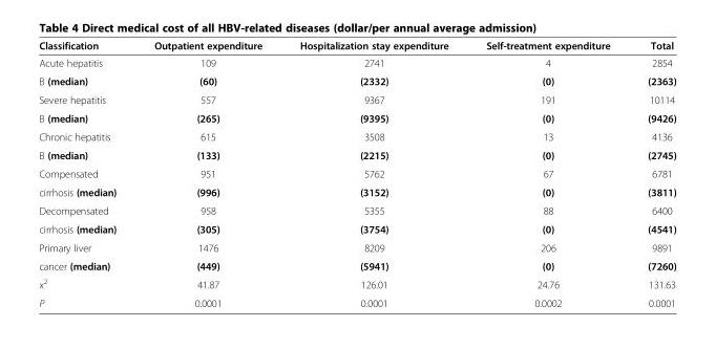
<table><thead><tr><td>Classification</td><td>Outpatient expenditure</td><td>Hospitalization stay expenditure</td><td>Self-treatment expenditure</td><td>Total</td></tr></thead><tbody><tr><td>Acute hepatitis</td><td>109</td><td>2741</td><td>4</td><td>2854</td></tr><tr><td>B (median)</td><td>(60)</td><td>(2332)</td><td>(0)</td><td>(2363)</td></tr><tr><td>Severe hepatitis</td><td>557</td><td>9367</td><td>191</td><td>10114</td></tr><tr><td>B (median)</td><td>(265)</td><td>(9395)</td><td>(0)</td><td>(9426)</td></tr><tr><td>Chronic hepatitis</td><td>615</td><td>3508</td><td>13</td><td>4136</td></tr><tr><td>B (median)</td><td>(133)</td><td>(2215)</td><td>(0)</td><td>(2745)</td></tr><tr><td>Compensated</td><td>951</td><td>5762</td><td>67</td><td>6781</td></tr><tr><td>cirrhosis (median)</td><td>(996)</td><td>(3152)</td><td>(0)</td><td>(3811)</td></tr><tr><td>Decompensated</td><td>958</td><td>5355</td><td>88</td><td>6400</td></tr><tr><td>cirrhosis (median)</td><td>(305)</td><td>(3754)</td><td>(0)</td><td>(4541)</td></tr><tr><td>Primary liver</td><td>1476</td><td>8209</td><td>206</td><td>9891</td></tr><tr><td>cancer (median)</td><td>(449)</td><td>(5941)</td><td>(0)</td><td>(7260)</td></tr><tr><td>x<sup>2</sup></td><td>41.87</td><td>126.01</td><td>24.76</td><td>131.63</td></tr><tr><td>P</td><td>0.0001</td><td>0.0001</td><td>0.0002</td><td>0.0001</td></tr></tbody></table>